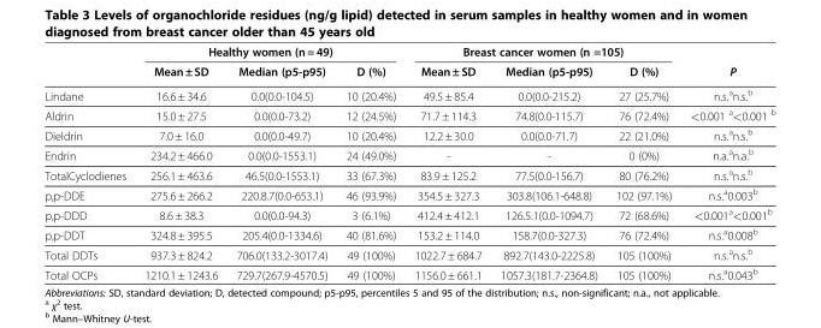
<table><thead><tr><td rowspan="2"></td><td colspan="3">Healthy women (n = 49)</td><td colspan="3">Breast cancer women (n =105)</td><td rowspan="2">P</td></tr><tr><td>Mean ± SD</td><td>Median (p5-p95)</td><td>D (%)</td><td>Mean ± SD</td><td>Median (p5-p95)</td><td>D (%)</td></tr></thead><tbody><tr><td>Lindane</td><td>16.6 ± 34.6</td><td>0.0(0.0-104.5)</td><td>10 (20.4%)</td><td>49.5 ± 85.4</td><td>0.0(0.0-215.2)</td><td>27 (25.7%)</td><td>n.s.<sup>a</sup>n.s.<sup>b</sup></td></tr><tr><td>Aldrin</td><td>15.0 ± 27.5</td><td>0.0(0.0-73.2)</td><td>12 (24.5%)</td><td>71.7 ± 114.3</td><td>74.8(0.0-115.7)</td><td>76 (72.4%)</td><td>&lt;0.001 <sup>a</sup>&lt;0.001 <sup>b</sup></td></tr><tr><td>Dieldrin</td><td>7.0 ± 16.0</td><td>0.0(0.0-49.7)</td><td>10 (20.4%)</td><td>12.2 ± 30.0</td><td>0.0(0.0-71.7)</td><td>22 (21.0%)</td><td>n.s.<sup>a</sup>n.s.<sup>b</sup></td></tr><tr><td>Endrin</td><td>234.2 ± 466.0</td><td>0.0(0.0-1553.1)</td><td>24 (49.0%)</td><td>-</td><td>-</td><td>0 (0%)</td><td>n.a.<sup>a</sup>n.a.<sup>b</sup></td></tr><tr><td>TotalCyclodienes</td><td>256.1 ± 463.6</td><td>46.5(0.0-1553.1)</td><td>33 (67.3%)</td><td>83.9 ± 125.2</td><td>77.5(0.0-156.7)</td><td>80 (76.2%)</td><td>n.s.<sup>a</sup>n.s.<sup>b</sup></td></tr><tr><td>p,p-DDE</td><td>275.6 ± 266.2</td><td>220.8.7(0.0-653.1)</td><td>46 (93.9%)</td><td>354.5 ± 327.3</td><td>303.8(106.1-648.8)</td><td>102 (97.1%)</td><td>n.s.<sup>a</sup>0.003<sup>b</sup></td></tr><tr><td>p,p-DDD</td><td>8.6 ± 38.3</td><td>0.0(0.0-94.3)</td><td>3 (6.1%)</td><td>412.4 ± 412.1</td><td>126.5.1(0.0-1094.7)</td><td>72 (68.6%)</td><td>&lt;0.001<sup>a</sup>&lt;0.001<sup>b</sup></td></tr><tr><td>p,p-DDT</td><td>324.8 ± 395.5</td><td>205.4(0.0-1334.6)</td><td>40 (81.6%)</td><td>153.2 ± 114.0</td><td>158.7(0.0-327.3)</td><td>76 (72.4%)</td><td>n.s.<sup>a</sup>0.008<sup>b</sup></td></tr><tr><td>Total DDTs</td><td>937.3 ± 824.2</td><td>706.0(133.2-3017.4)</td><td>49 (100%)</td><td>1022.7 ± 684.7</td><td>892.7(143.0-2225.8)</td><td>105 (100%)</td><td>n.s.<sup>a</sup>n.s.<sup>b</sup></td></tr><tr><td>Total OCPs</td><td>1210.1 ± 1243.6</td><td>729.7(267.9-4570.5)</td><td>49 (100%)</td><td>1156.0 ± 661.1</td><td>1057.3(181.7-2364.8)</td><td>105 (100%)</td><td>n.s.<sup>a</sup>0.043<sup>b</sup></td></tr></tbody></table>